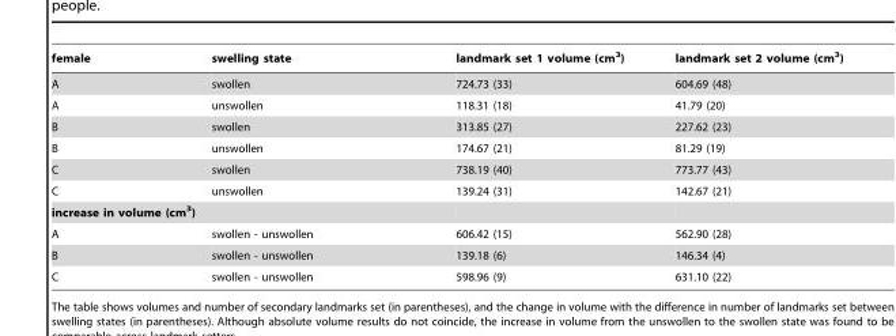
<table><thead><tr><td>female</td><td>swelling state</td><td>landmark set 1 volume (cm<sup>3</sup>)</td><td>landmark set 2 volume (cm<sup>3</sup>)</td></tr></thead><tbody><tr><td>A</td><td>swollen</td><td>724.73 (33)</td><td>604.69 (48)</td></tr><tr><td>A</td><td>unswollen</td><td>118.31 (18)</td><td>41.79 (20)</td></tr><tr><td>B</td><td>swollen</td><td>313.85 (27)</td><td>227.62 (23)</td></tr><tr><td>B</td><td>unswollen</td><td>174.67 (21)</td><td>81.29 (19)</td></tr><tr><td>C</td><td>swollen</td><td>738.19 (40)</td><td>773.77 (43)</td></tr><tr><td>C</td><td>unswollen</td><td>139.24 (31)</td><td>142.67 (21)</td></tr><tr><td colspan="4">increase in volume (cm<sup>3</sup>)</td></tr><tr><td>A</td><td>swollen - unswollen</td><td>606.42 (15)</td><td>562.90 (28)</td></tr><tr><td>B</td><td>swollen - unswollen</td><td>139.18 (6)</td><td>146.34 (4)</td></tr><tr><td>C</td><td>swollen - unswollen</td><td>598.96 (9)</td><td>631.10 (22)</td></tr></tbody></table>